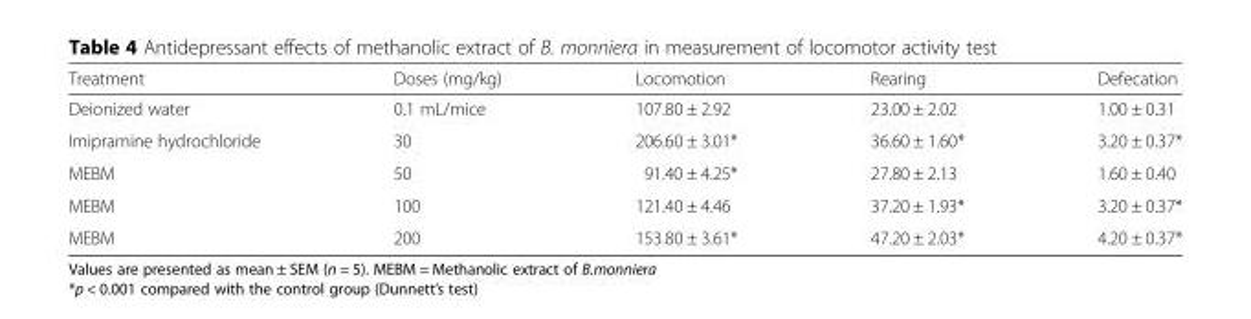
<table><thead><tr><td>Treatment</td><td>Doses (mg/kg)</td><td>Locomotion</td><td>Rearing</td><td>Defecation</td></tr></thead><tbody><tr><td>Deionized water</td><td>0.1 mL/mice</td><td>107.80 ± 2.92</td><td>23.00 ± 2.02</td><td>1.00 ± 0.31</td></tr><tr><td>Imipramine hydrochloride</td><td>30</td><td>206.60 ± 3.01*</td><td>36.60 ± 1.60*</td><td>3.20 ± 0.37*</td></tr><tr><td>MEBM</td><td>50</td><td>91.40 ± 4.25*</td><td>27.80 ± 2.13</td><td>1.60 ± 0.40</td></tr><tr><td>MEBM</td><td>100</td><td>121.40 ± 4.46</td><td>37.20 ± 1.93*</td><td>3.20 ± 0.37*</td></tr><tr><td>MEBM</td><td>200</td><td>153.80 ± 3.61*</td><td>47.20 ± 2.03*</td><td>4.20 ± 0.37*</td></tr></tbody></table>